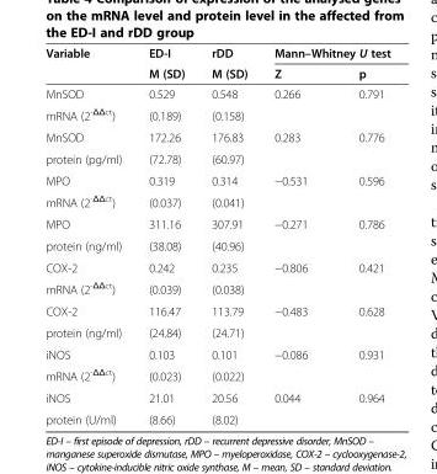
<table><thead><tr><td rowspan="2">Variable</td><td rowspan="2">ED-I M (SD)</td><td rowspan="2">rDD M (SD)</td><td colspan="2">Mann–Whitney U test</td></tr><tr><td>Z</td><td>p</td></tr></thead><tbody><tr><td>MnSOD</td><td>0.529</td><td>0.548</td><td>0.266</td><td>0.791</td></tr><tr><td>mRNA (2<sup>-ΔΔct</sup>)</td><td>(0.189)</td><td>(0.158)</td><td></td><td></td></tr><tr><td>MnSOD</td><td>172.26</td><td>176.83</td><td>0.283</td><td>0.776</td></tr><tr><td>protein (pg/ml)</td><td>(72.78)</td><td>(60.97)</td><td></td><td></td></tr><tr><td>MPO</td><td>0.319</td><td>0.314</td><td>−0.531</td><td>0.596</td></tr><tr><td>mRNA (2<sup>-ΔΔct</sup>)</td><td>(0.037)</td><td>(0.041)</td><td></td><td></td></tr><tr><td>MPO</td><td>311.16</td><td>307.91</td><td>−0.271</td><td>0.786</td></tr><tr><td>protein (ng/ml)</td><td>(38.08)</td><td>(40.96)</td><td></td><td></td></tr><tr><td>COX-2</td><td>0.242</td><td>0.235</td><td>−0.806</td><td>0.421</td></tr><tr><td>mRNA (2<sup>-ΔΔct</sup>)</td><td>(0.039)</td><td>(0.038)</td><td></td><td></td></tr><tr><td>COX-2</td><td>116.47</td><td>113.79</td><td>−0.483</td><td>0.628</td></tr><tr><td>protein (ng/ml)</td><td>(24.84)</td><td>(24.71)</td><td></td><td></td></tr><tr><td>iNOS</td><td>0.103</td><td>0.101</td><td>−0.086</td><td>0.931</td></tr><tr><td>mRNA (2<sup>-ΔΔct</sup>)</td><td>(0.023)</td><td>(0.022)</td><td></td><td></td></tr><tr><td>iNOS</td><td>21.01</td><td>20.56</td><td>0.044</td><td>0.964</td></tr><tr><td>protein (U/ml)</td><td>(8.66)</td><td>(8.02)</td><td></td><td></td></tr></tbody></table>